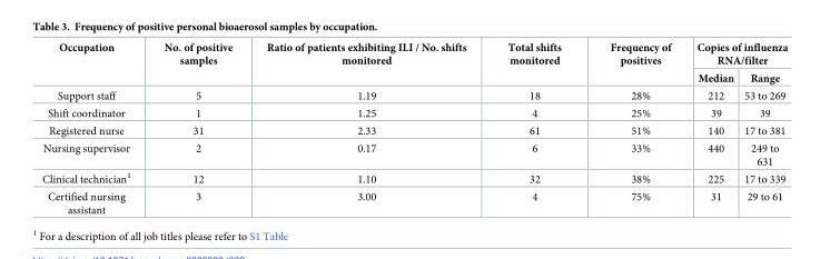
<table><thead><tr><td rowspan="2">Occupation</td><td rowspan="2">No. of positive samples</td><td rowspan="2">Ratio of patients exhibiting ILI / No. shifts monitored</td><td rowspan="2">Total shifts monitored</td><td rowspan="2">Frequency of positives</td><td colspan="2">Copies of influenza RNA/filter</td></tr><tr><td>Median</td><td>Range</td></tr></thead><tbody><tr><td>Support staff</td><td>5</td><td>1.19</td><td>18</td><td>28%</td><td>212</td><td>53 to 269</td></tr><tr><td>Shift coordinator</td><td>1</td><td>1.25</td><td>4</td><td>25%</td><td>39</td><td>39</td></tr><tr><td>Registered nurse</td><td>31</td><td>2.33</td><td>61</td><td>51%</td><td>140</td><td>17 to 381</td></tr><tr><td>Nursing supervisor</td><td>2</td><td>0.17</td><td>6</td><td>33%</td><td>440</td><td>249 to 631</td></tr><tr><td>Clinical technician<sup>1</sup></td><td>12</td><td>1.10</td><td>32</td><td>38%</td><td>225</td><td>17 to 339</td></tr><tr><td>Certified nursing assistant</td><td>3</td><td>3.00</td><td>4</td><td>75%</td><td>31</td><td>29 to 61</td></tr></tbody></table>